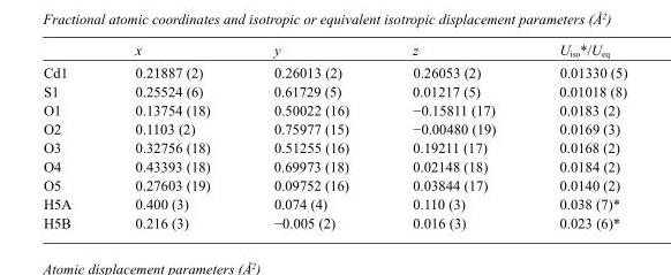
<table><thead><tr><td></td><td>x</td><td>y</td><td>z</td><td>U<sub>iso</sub>*/U<sub>eq</sub></td></tr></thead><tbody><tr><td>Cd1</td><td>0.21887 (2)</td><td>0.26013 (2)</td><td>0.26053 (2)</td><td>0.01330 (5)</td></tr><tr><td>S1</td><td>0.25524 (6)</td><td>0.61729 (5)</td><td>0.01217 (5)</td><td>0.01018 (8)</td></tr><tr><td>O1</td><td>0.13754 (18)</td><td>0.50022 (16)</td><td>−0.15811 (17)</td><td>0.0183 (2)</td></tr><tr><td>O2</td><td>0.1103 (2)</td><td>0.75977 (15)</td><td>−0.00480 (19)</td><td>0.0169 (3)</td></tr><tr><td>O3</td><td>0.32756 (18)</td><td>0.51255 (16)</td><td>0.19211 (17)</td><td>0.0168 (2)</td></tr><tr><td>O4</td><td>0.43393 (18)</td><td>0.69973 (18)</td><td>0.02148 (18)</td><td>0.0184 (2)</td></tr><tr><td>O5</td><td>0.27603 (19)</td><td>0.09752 (16)</td><td>0.03844 (17)</td><td>0.0140 (2)</td></tr><tr><td>H5A</td><td>0.400 (3)</td><td>0.074 (4)</td><td>0.110 (3)</td><td>0.038 (7)*</td></tr><tr><td>H5B</td><td>0.216 (3)</td><td>−0.005 (2)</td><td>0.016 (3)</td><td>0.023 (6)*</td></tr></tbody></table>